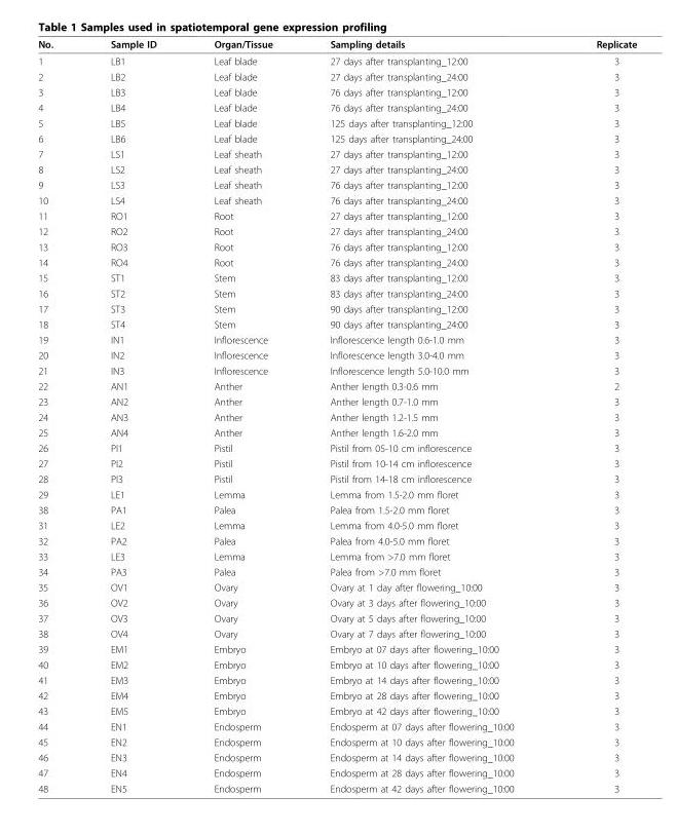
<table><thead><tr><td>No.</td><td>Sample ID</td><td>Organ/Tissue</td><td>Sampling details</td><td>Replicate</td></tr></thead><tbody><tr><td>1</td><td>LB1</td><td>Leaf blade</td><td>27 days after transplanting_12:00</td><td>3</td></tr><tr><td>2</td><td>LB2</td><td>Leaf blade</td><td>27 days after transplanting_24:00</td><td>3</td></tr><tr><td>3</td><td>LB3</td><td>Leaf blade</td><td>76 days after transplanting_12:00</td><td>3</td></tr><tr><td>4</td><td>LB4</td><td>Leaf blade</td><td>76 days after transplanting_24:00</td><td>3</td></tr><tr><td>5</td><td>LB5</td><td>Leaf blade</td><td>125 days after transplanting_12:00</td><td>3</td></tr><tr><td>6</td><td>LB6</td><td>Leaf blade</td><td>125 days after transplanting_24:00</td><td>3</td></tr><tr><td>7</td><td>LS1</td><td>Leaf sheath</td><td>27 days after transplanting_12:00</td><td>3</td></tr><tr><td>8</td><td>LS2</td><td>Leaf sheath</td><td>27 days after transplanting_24:00</td><td>3</td></tr><tr><td>9</td><td>LS3</td><td>Leaf sheath</td><td>76 days after transplanting_12:00</td><td>3</td></tr><tr><td>10</td><td>LS4</td><td>Leaf sheath</td><td>76 days after transplanting_24:00</td><td>3</td></tr><tr><td>11</td><td>RO1</td><td>Root</td><td>27 days after transplanting_12:00</td><td>3</td></tr><tr><td>12</td><td>RO2</td><td>Root</td><td>27 days after transplanting_24:00</td><td>3</td></tr><tr><td>13</td><td>RO3</td><td>Root</td><td>76 days after transplanting_12:00</td><td>3</td></tr><tr><td>14</td><td>RO4</td><td>Root</td><td>76 days after transplanting_24:00</td><td>3</td></tr><tr><td>15</td><td>ST1</td><td>Stem</td><td>83 days after transplanting_12:00</td><td>3</td></tr><tr><td>16</td><td>ST2</td><td>Stem</td><td>83 days after transplanting_24:00</td><td>3</td></tr><tr><td>17</td><td>ST3</td><td>Stem</td><td>90 days after transplanting_12:00</td><td>3</td></tr><tr><td>18</td><td>ST4</td><td>Stem</td><td>90 days after transplanting_24:00</td><td>3</td></tr><tr><td>19</td><td>IN1</td><td>Inflorescence</td><td>Inflorescence length 0.6-1.0 mm</td><td>3</td></tr><tr><td>20</td><td>IN2</td><td>Inflorescence</td><td>Inflorescence length 3.0-4.0 mm</td><td>3</td></tr><tr><td>21</td><td>IN3</td><td>Inflorescence</td><td>Inflorescence length 5.0-10.0 mm</td><td>3</td></tr><tr><td>22</td><td>AN1</td><td>Anther</td><td>Anther length 0.3-0.6 mm</td><td>2</td></tr><tr><td>23</td><td>AN2</td><td>Anther</td><td>Anther length 0.7-1.0 mm</td><td>3</td></tr><tr><td>24</td><td>AN3</td><td>Anther</td><td>Anther length 1.2-1.5 mm</td><td>3</td></tr><tr><td>25</td><td>AN4</td><td>Anther</td><td>Anther length 1.6-2.0 mm</td><td>3</td></tr><tr><td>26</td><td>PI1</td><td>Pistil</td><td>Pistil from 05-10 cm inflorescence</td><td>3</td></tr><tr><td>27</td><td>PI2</td><td>Pistil</td><td>Pistil from 10-14 cm inflorescence</td><td>3</td></tr><tr><td>28</td><td>PI3</td><td>Pistil</td><td>Pistil from 14-18 cm inflorescence</td><td>3</td></tr><tr><td>29</td><td>LE1</td><td>Lemma</td><td>Lemma from 1.5-2.0 mm floret</td><td>3</td></tr><tr><td>38</td><td>PA1</td><td>Palea</td><td>Palea from 1.5-2.0 mm floret</td><td>3</td></tr><tr><td>31</td><td>LE2</td><td>Lemma</td><td>Lemma from 4.0-5.0 mm floret</td><td>3</td></tr><tr><td>32</td><td>PA2</td><td>Palea</td><td>Palea from 4.0-5.0 mm floret</td><td>3</td></tr><tr><td>33</td><td>LE3</td><td>Lemma</td><td>Lemma from &gt;7.0 mm floret</td><td>3</td></tr><tr><td>34</td><td>PA3</td><td>Palea</td><td>Palea from &gt;7.0 mm floret</td><td>3</td></tr><tr><td>35</td><td>OV1</td><td>Ovary</td><td>Ovary at 1 day after flowering_10:00</td><td>3</td></tr><tr><td>36</td><td>OV2</td><td>Ovary</td><td>Ovary at 3 days after flowering_10:00</td><td>3</td></tr><tr><td>37</td><td>OV3</td><td>Ovary</td><td>Ovary at 5 days after flowering_10:00</td><td>3</td></tr><tr><td>38</td><td>OV4</td><td>Ovary</td><td>Ovary at 7 days after flowering_10:00</td><td>3</td></tr><tr><td>39</td><td>EM1</td><td>Embryo</td><td>Embryo at 07 days after flowering_10:00</td><td>3</td></tr><tr><td>40</td><td>EM2</td><td>Embryo</td><td>Embryo at 10 days after flowering_10:00</td><td>3</td></tr><tr><td>41</td><td>EM3</td><td>Embryo</td><td>Embryo at 14 days after flowering_10:00</td><td>3</td></tr><tr><td>42</td><td>EM4</td><td>Embryo</td><td>Embryo at 28 days after flowering_10:00</td><td>3</td></tr><tr><td>43</td><td>EM5</td><td>Embryo</td><td>Embryo at 42 days after flowering_10:00</td><td>3</td></tr><tr><td>44</td><td>EN1</td><td>Endosperm</td><td>Endosperm at 07 days after flowering_10:00</td><td>3</td></tr><tr><td>45</td><td>EN2</td><td>Endosperm</td><td>Endosperm at 10 days after flowering_10:00</td><td>3</td></tr><tr><td>46</td><td>EN3</td><td>Endosperm</td><td>Endosperm at 14 days after flowering_10:00</td><td>3</td></tr><tr><td>47</td><td>EN4</td><td>Endosperm</td><td>Endosperm at 28 days after flowering_10:00</td><td>3</td></tr><tr><td>48</td><td>EN5</td><td>Endosperm</td><td>Endosperm at 42 days after flowering_10:00</td><td>3</td></tr></tbody></table>